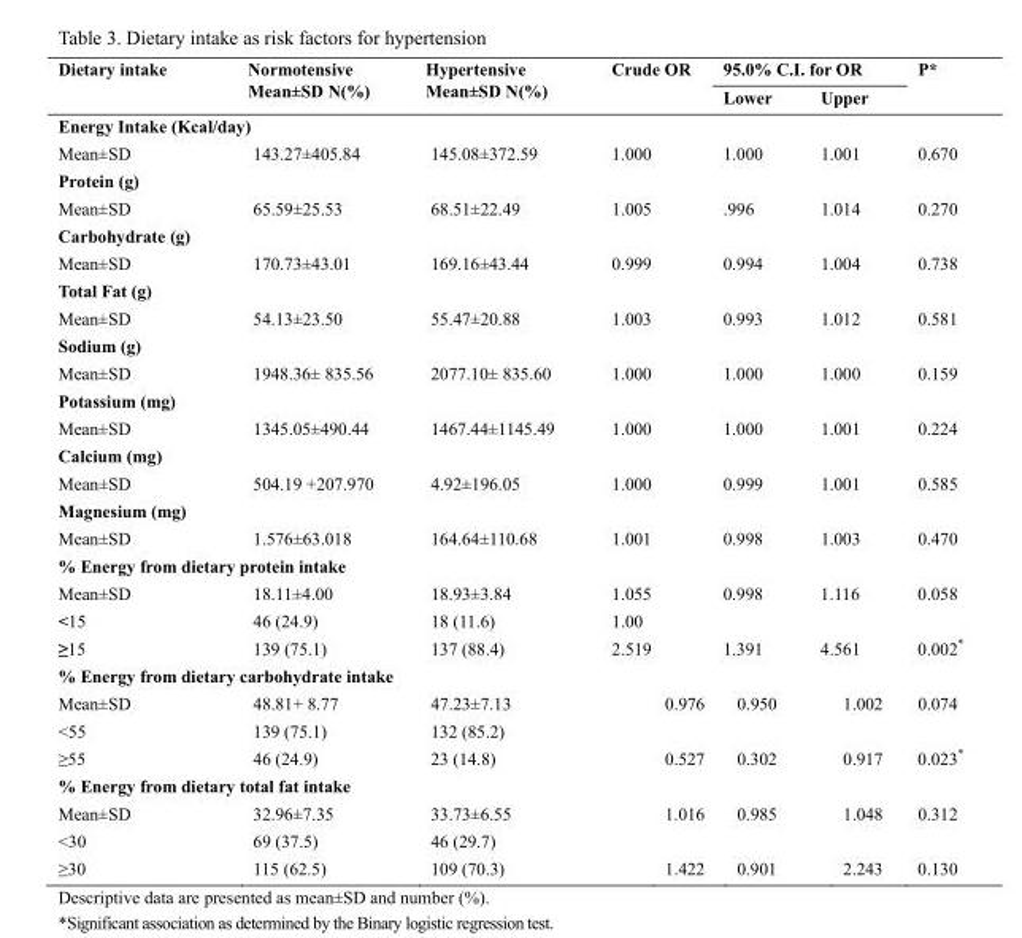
<table><thead><tr><td rowspan="2">Dietary intake</td><td rowspan="2">Normotensive Mean±SD N(%)</td><td rowspan="2">Hypertensive Mean±SD N(%)</td><td rowspan="2">Crude OR</td><td colspan="2">95.0% C.I. for OR</td><td rowspan="2">P*</td></tr><tr><td>Lower</td><td>Upper</td></tr></thead><tbody><tr><td colspan="7">Energy Intake (Kcal/day)</td></tr><tr><td>Mean±SD</td><td>143.27±405.84</td><td>145.08±372.59</td><td>1.000</td><td>1.000</td><td>1.001</td><td>0.670</td></tr><tr><td colspan="7">Protein (g)</td></tr><tr><td>Mean±SD</td><td>65.59±25.53</td><td>68.51±22.49</td><td>1.005</td><td>.996</td><td>1.014</td><td>0.270</td></tr><tr><td colspan="7">Carbohydrate (g)</td></tr><tr><td>Mean±SD</td><td>170.73±43.01</td><td>169.16±43.44</td><td>0.999</td><td>0.994</td><td>1.004</td><td>0.738</td></tr><tr><td colspan="7">Total Fat (g)</td></tr><tr><td>Mean±SD</td><td>54.13±23.50</td><td>55.47±20.88</td><td>1.003</td><td>0.993</td><td>1.012</td><td>0.581</td></tr><tr><td colspan="7">Sodium (g)</td></tr><tr><td>Mean±SD</td><td>1948.36± 835.56</td><td>2077.10± 835.60</td><td>1.000</td><td>1.000</td><td>1.000</td><td>0.159</td></tr><tr><td colspan="7">Potassium (mg)</td></tr><tr><td>Mean±SD</td><td>1345.05±490.44</td><td>1467.44±1145.49</td><td>1.000</td><td>1.000</td><td>1.001</td><td>0.224</td></tr><tr><td colspan="7">Calcium (mg)</td></tr><tr><td>Mean±SD</td><td>504.19 +207.970</td><td>4.92±196.05</td><td>1.000</td><td>0.999</td><td>1.001</td><td>0.585</td></tr><tr><td colspan="7">Magnesium (mg)</td></tr><tr><td>Mean±SD</td><td>1.576±63.018</td><td>164.64±110.68</td><td>1.001</td><td>0.998</td><td>1.003</td><td>0.470</td></tr><tr><td colspan="7">% Energy from dietary protein intake</td></tr><tr><td>Mean±SD</td><td>18.11±4.00</td><td>18.93±3.84</td><td>1.055</td><td>0.998</td><td>1.116</td><td>0.058</td></tr><tr><td>&lt;15</td><td>46 (24.9)</td><td>18 (11.6)</td><td>1.00</td><td></td><td></td><td></td></tr><tr><td>≥15</td><td>139 (75.1)</td><td>137 (88.4)</td><td>2.519</td><td>1.391</td><td>4.561</td><td>0.002*</td></tr><tr><td colspan="7">% Energy from dietary carbohydrate intake</td></tr><tr><td>Mean±SD</td><td>48.81+ 8.77</td><td>47.23±7.13</td><td>0.976</td><td>0.950</td><td>1.002</td><td>0.074</td></tr><tr><td>&lt;55</td><td>139 (75.1)</td><td>132 (85.2)</td><td></td><td></td><td></td><td></td></tr><tr><td>≥55</td><td>46 (24.9)</td><td>23 (14.8)</td><td>0.527</td><td>0.302</td><td>0.917</td><td>0.023*</td></tr><tr><td colspan="7">% Energy from dietary total fat intake</td></tr><tr><td>Mean±SD</td><td>32.96±7.35</td><td>33.73±6.55</td><td>1.016</td><td>0.985</td><td>1.048</td><td>0.312</td></tr><tr><td>&lt;30</td><td>69 (37.5)</td><td>46 (29.7)</td><td></td><td></td><td></td><td></td></tr><tr><td>≥30</td><td>115 (62.5)</td><td>109 (70.3)</td><td>1.422</td><td>0.901</td><td>2.243</td><td>0.130</td></tr></tbody></table>